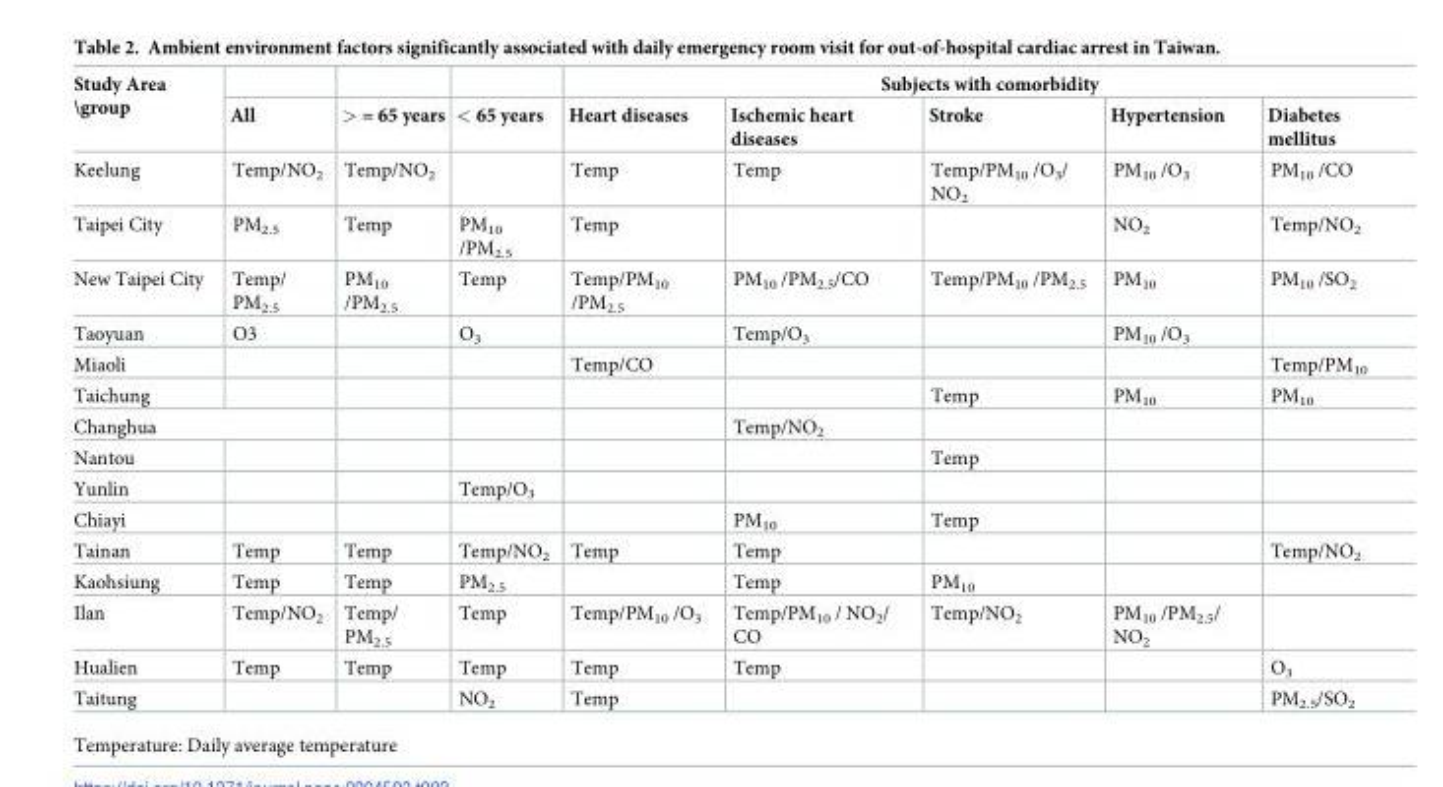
<table><thead><tr><td rowspan="2">Study Area \group</td><td rowspan="2">All</td><td rowspan="2">&gt; = 65 years</td><td rowspan="2">&lt; 65 years</td><td colspan="5">Subjects with comorbidity</td></tr><tr><td>Heart diseases</td><td>Ischemic heart diseases</td><td>Stroke</td><td>Hypertension</td><td>Diabetes mellitus</td></tr></thead><tbody><tr><td>Keelung</td><td>Temp/NO<sub>2</sub></td><td>Temp/NO<sub>2</sub></td><td></td><td>Temp</td><td>Temp</td><td>Temp/PM<sub>10</sub> /O<sub>3</sub>/ NO<sub>2</sub></td><td>PM<sub>10</sub> /O<sub>3</sub></td><td>PM<sub>10</sub> /CO</td></tr><tr><td>Taipei City</td><td>PM<sub>2.5</sub></td><td>Temp</td><td>PM<sub>10</sub> /PM<sub>2.5</sub></td><td>Temp</td><td></td><td></td><td>NO<sub>2</sub></td><td>Temp/NO<sub>2</sub></td></tr><tr><td>New Taipei City</td><td>Temp/ PM<sub>2.5</sub></td><td>PM<sub>10</sub> /PM<sub>2.5</sub></td><td>Temp</td><td>Temp/PM<sub>10</sub> /PM<sub>2.5</sub></td><td>PM<sub>10</sub> /PM<sub>2.5</sub>/CO</td><td>Temp/PM<sub>10</sub> /PM<sub>2.5</sub></td><td>PM<sub>10</sub></td><td>PM<sub>10</sub> /SO<sub>2</sub></td></tr><tr><td>Taoyuan</td><td>O3</td><td></td><td>O<sub>3</sub></td><td></td><td>Temp/O<sub>3</sub></td><td></td><td>PM<sub>10</sub> /O<sub>3</sub></td><td></td></tr><tr><td>Miaoli</td><td></td><td></td><td></td><td>Temp/CO</td><td></td><td></td><td></td><td>Temp/PM<sub>10</sub></td></tr><tr><td>Taichung</td><td></td><td></td><td></td><td></td><td></td><td>Temp</td><td>PM<sub>10</sub></td><td>PM<sub>10</sub></td></tr><tr><td colspan="2">Changhua</td><td></td><td></td><td></td><td>Temp/NO<sub>2</sub></td><td></td><td></td><td></td></tr><tr><td>Nantou</td><td></td><td></td><td></td><td></td><td></td><td>Temp</td><td></td><td></td></tr><tr><td>Yunlin</td><td></td><td></td><td>Temp/O<sub>3</sub></td><td></td><td></td><td></td><td></td><td></td></tr><tr><td>Chiayi</td><td></td><td></td><td></td><td></td><td>PM<sub>10</sub></td><td>Temp</td><td></td><td></td></tr><tr><td>Tainan</td><td>Temp</td><td>Temp</td><td>Temp/NO<sub>2</sub></td><td>Temp</td><td>Temp</td><td></td><td></td><td>Temp/NO<sub>2</sub></td></tr><tr><td>Kaohsiung</td><td>Temp</td><td>Temp</td><td>PM<sub>2.5</sub></td><td></td><td>Temp</td><td>PM<sub>10</sub></td><td></td><td></td></tr><tr><td>Ilan</td><td>Temp/NO<sub>2</sub></td><td>Temp/ PM<sub>2.5</sub></td><td>Temp</td><td>Temp/PM<sub>10</sub> /O<sub>3</sub></td><td>Temp/PM<sub>10</sub> / NO<sub>2</sub>/ CO</td><td>Temp/NO<sub>2</sub></td><td>PM<sub>10</sub> /PM<sub>2.5</sub>/ NO<sub>2</sub></td><td></td></tr><tr><td>Hualien</td><td>Temp</td><td>Temp</td><td>Temp</td><td>Temp</td><td>Temp</td><td></td><td></td><td>O<sub>3</sub></td></tr><tr><td>Taitung</td><td></td><td></td><td>NO<sub>2</sub></td><td>Temp</td><td></td><td></td><td></td><td>PM<sub>2.5</sub>/SO<sub>2</sub></td></tr></tbody></table>